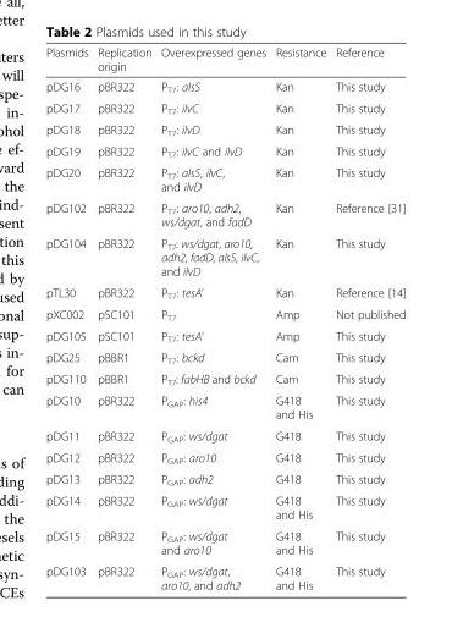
<table><thead><tr><td>Plasmids</td><td>Replication origin</td><td>Overexpressed genes</td><td>Resistance</td><td>Reference</td></tr></thead><tbody><tr><td>pDG16</td><td>pBR322</td><td>P<sub>T7</sub>: alsS</td><td>Kan</td><td>This study</td></tr><tr><td>pDG17</td><td>pBR322</td><td>P<sub>T7</sub>: ilvC</td><td>Kan</td><td>This study</td></tr><tr><td>pDG18</td><td>pBR322</td><td>P<sub>T7</sub>: ilvD</td><td>Kan</td><td>This study</td></tr><tr><td>pDG19</td><td>pBR322</td><td>P<sub>T7</sub>: ilvC and ilvD</td><td>Kan</td><td>This study</td></tr><tr><td>pDG20</td><td>pBR322</td><td>P<sub>T7</sub>: alsS, ilvC, and ilvD</td><td>Kan</td><td>This study</td></tr><tr><td>pDG102</td><td>pBR322</td><td>P<sub>T7</sub>: aro10, adh2, ws/dgat, and fadD</td><td>Kan</td><td>Reference [31]</td></tr><tr><td>pDG104</td><td>pBR322</td><td>P<sub>T7</sub>: ws/dgat, aro10, adh2, fadD, alsS, ilvC, and ilvD</td><td>Kan</td><td>This study</td></tr><tr><td>pTL30</td><td>pBR322</td><td>P<sub>T7</sub>: tesA’</td><td>Kan</td><td>Reference [14]</td></tr><tr><td>pXC002</td><td>pSC101</td><td>P<sub>T7</sub></td><td>Amp</td><td>Not published</td></tr><tr><td>pDG105</td><td>pSC101</td><td>P<sub>T7</sub>: tesA’</td><td>Amp</td><td>This study</td></tr><tr><td>pDG25</td><td>pBBR1</td><td>P<sub>T7</sub>: bckd</td><td>Cam</td><td>This study</td></tr><tr><td>pDG110</td><td>pBBR1</td><td>P<sub>T7</sub>: fabHB and bckd</td><td>Cam</td><td>This study</td></tr><tr><td>pDG10</td><td>pBR322</td><td>P<sub>GAP</sub>: his4</td><td>G418 and His</td><td>This study</td></tr><tr><td>pDG11</td><td>pBR322</td><td>P<sub>GAP</sub>: ws/dgat</td><td>G418</td><td>This study</td></tr><tr><td>pDG12</td><td>pBR322</td><td>P<sub>GAP</sub>: aro10</td><td>G418</td><td>This study</td></tr><tr><td>pDG13</td><td>pBR322</td><td>P<sub>GAP</sub>: adh2</td><td>G418</td><td>This study</td></tr><tr><td>pDG14</td><td>pBR322</td><td>P<sub>GAP</sub>: ws/dgat</td><td>G418 and His</td><td>This study</td></tr><tr><td>pDG15</td><td>pBR322</td><td>P<sub>GAP</sub>: ws/dgat and aro10</td><td>G418 and His</td><td>This study</td></tr><tr><td>pDG103</td><td>pBR322</td><td>P<sub>GAP</sub>: ws/dgat, aro10, and adh2</td><td>G418 and His</td><td>This study</td></tr></tbody></table>